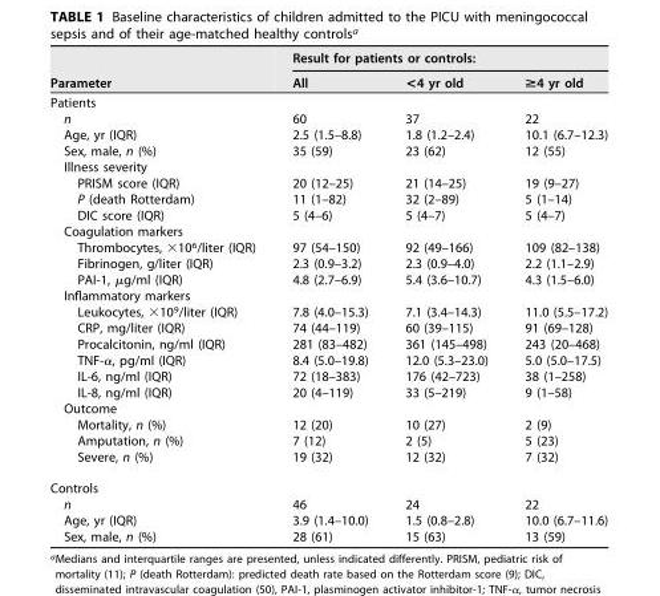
<table><thead><tr><td rowspan="2">Parameter</td><td colspan="3">Result for patients or controls:</td></tr><tr><td>All</td><td>&lt;4 yr old</td><td>&gt;4 yr old</td></tr></thead><tbody><tr><td colspan="4">Patients</td></tr><tr><td>n</td><td>60</td><td>37</td><td>22</td></tr><tr><td>Age, yr (IQR)</td><td>2.5 (1.5–8.8)</td><td>1.8 (1.2–2.4)</td><td>10.1 (6.7–12.3)</td></tr><tr><td>Sex, male, n (%)</td><td>35 (59)</td><td>23 (62)</td><td>12 (55)</td></tr><tr><td colspan="4">Illness severity</td></tr><tr><td>PRISM score (IQR)</td><td>20 (12–25)</td><td>21 (14–25)</td><td>19 (9–27)</td></tr><tr><td>P (death Rotterdam)</td><td>11 (1–82)</td><td>32 (2–89)</td><td>5 (1–14)</td></tr><tr><td>DIC score (IQR)</td><td>5 (4–6)</td><td>5 (4–7)</td><td>5 (4–7)</td></tr><tr><td colspan="4">Coagulation markers</td></tr><tr><td>Thrombocytes, ×10<sup>6</sup>/liter (IQR)</td><td>97 (54–150)</td><td>92 (49–166)</td><td>109 (82–138)</td></tr><tr><td>Fibrinogen, g/liter (IQR)</td><td>2.3 (0.9–3.2)</td><td>2.3 (0.9–4.0)</td><td>2.2 (1.1–2.9)</td></tr><tr><td>PAI-1, µg/ml (IQR)</td><td>4.8 (2.7–6.9)</td><td>5.4 (3.6–10.7)</td><td>4.3 (1.5–6.0)</td></tr><tr><td colspan="4">Inflammatory markers</td></tr><tr><td>Leukocytes, ×10<sup>9</sup>/liter (IQR)</td><td>7.8 (4.0–15.3)</td><td>7.1 (3.4–14.3)</td><td>11.0 (5.5–17.2)</td></tr><tr><td>CRP, mg/liter (IQR)</td><td>74 (44–119)</td><td>60 (39–115)</td><td>91 (69–128)</td></tr><tr><td>Procalcitonin, ng/ml (IQR)</td><td>281 (83–482)</td><td>361 (145–498)</td><td>243 (20–468)</td></tr><tr><td>TNF-α, pg/ml (IQR)</td><td>8.4 (5.0–19.8)</td><td>12.0 (5.3–23.0)</td><td>5.0 (5.0–17.5)</td></tr><tr><td>IL-6, ng/ml (IQR)</td><td>72 (18–383)</td><td>176 (42–723)</td><td>38 (1–258)</td></tr><tr><td>IL-8, ng/ml (IQR)</td><td>20 (4–119)</td><td>33 (5–219)</td><td>9 (1–58)</td></tr><tr><td colspan="4">Outcome</td></tr><tr><td>Mortality, n (%)</td><td>12 (20)</td><td>10 (27)</td><td>2 (9)</td></tr><tr><td>Amputation, n (%)</td><td>7 (12)</td><td>2 (5)</td><td>5 (23)</td></tr><tr><td>Severe, n (%)</td><td>19 (32)</td><td>12 (32)</td><td>7 (32)</td></tr><tr><td colspan="4">Controls</td></tr><tr><td>n</td><td>46</td><td>24</td><td>22</td></tr><tr><td>Age, yr (IQR)</td><td>3.9 (1.4–10.0)</td><td>1.5 (0.8–2.8)</td><td>10.0 (6.7–11.6)</td></tr><tr><td>Sex, male, n (%)</td><td>28 (61)</td><td>15 (63)</td><td>13 (59)</td></tr></tbody></table>